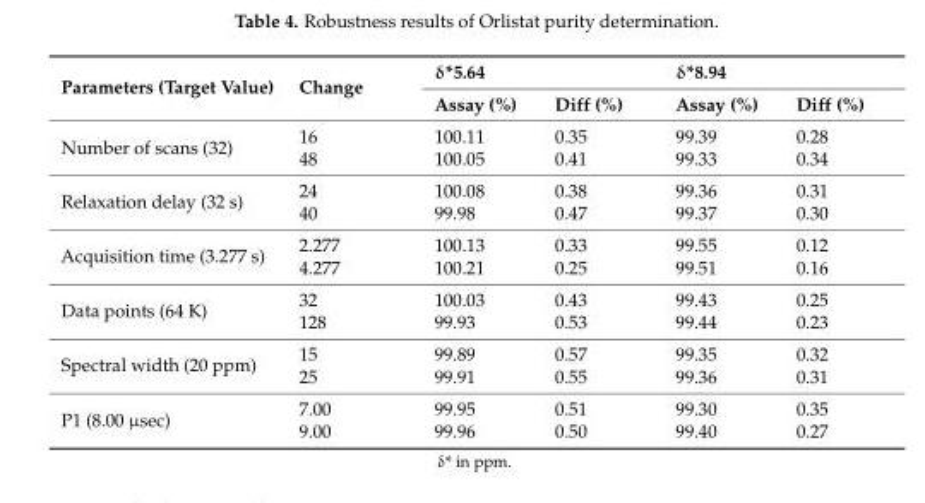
<table><thead><tr><td rowspan="2">Parameters (Target Value)</td><td rowspan="2">Change</td><td colspan="2">δ*5.64</td><td colspan="2">δ*8.94</td></tr><tr><td>Assay (%)</td><td>Diff (%)</td><td>Assay (%)</td><td>Diff (%)</td></tr></thead><tbody><tr><td rowspan="2">Number of scans (32)</td><td>16</td><td>100.11</td><td>0.35</td><td>99.39</td><td>0.28</td></tr><tr><td>48</td><td>100.05</td><td>0.41</td><td>99.33</td><td>0.34</td></tr><tr><td rowspan="2">Relaxation delay (32 s)</td><td>24</td><td>100.08</td><td>0.38</td><td>99.36</td><td>0.31</td></tr><tr><td>40</td><td>99.98</td><td>0.47</td><td>99.37</td><td>0.30</td></tr><tr><td rowspan="2">Acquisition time (3.277 s)</td><td>2.277</td><td>100.13</td><td>0.33</td><td>99.55</td><td>0.12</td></tr><tr><td>4.277</td><td>100.21</td><td>0.25</td><td>99.51</td><td>0.16</td></tr><tr><td rowspan="2">Data points (64 K)</td><td>32</td><td>100.03</td><td>0.43</td><td>99.43</td><td>0.25</td></tr><tr><td>128</td><td>99.93</td><td>0.53</td><td>99.44</td><td>0.23</td></tr><tr><td rowspan="2">Spectral width (20 ppm)</td><td>15</td><td>99.89</td><td>0.57</td><td>99.35</td><td>0.32</td></tr><tr><td>25</td><td>99.91</td><td>0.55</td><td>99.36</td><td>0.31</td></tr><tr><td rowspan="2">P1 (8.00 µsec)</td><td>7.00</td><td>99.95</td><td>0.51</td><td>99.30</td><td>0.35</td></tr><tr><td>9.00</td><td>99.96</td><td>0.50</td><td>99.40</td><td>0.27</td></tr></tbody></table>